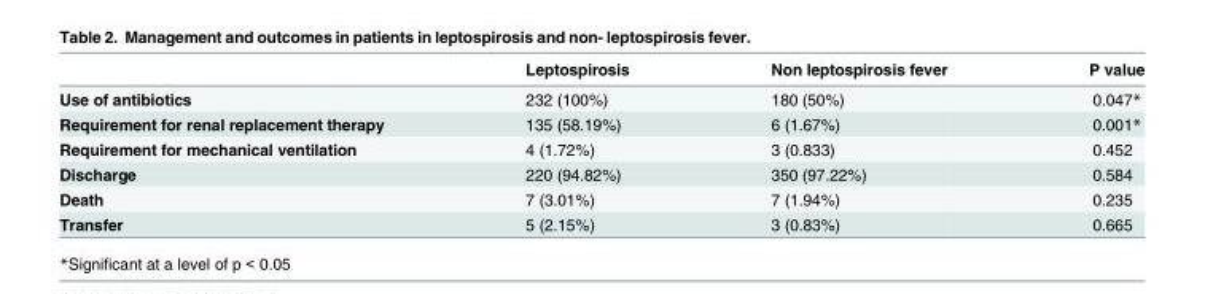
<table><thead><tr><td></td><td>Leptospirosis</td><td>Non leptospirosis fever</td><td>P value</td></tr></thead><tbody><tr><td>Use of antibiotics</td><td>232 (100%)</td><td>180 (50%)</td><td>0.047*</td></tr><tr><td>Requirement for renal replacement therapy</td><td>135 (58.19%)</td><td>6 (1.67%)</td><td>0.001*</td></tr><tr><td>Requirement for mechanical ventilation</td><td>4 (1.72%)</td><td>3 (0.833)</td><td>0.452</td></tr><tr><td>Discharge</td><td>220 (94.82%)</td><td>350 (97.22%)</td><td>0.584</td></tr><tr><td>Death</td><td>7 (3.01%)</td><td>7 (1.94%)</td><td>0.235</td></tr><tr><td>Transfer</td><td>5 (2.15%)</td><td>3 (0.83%)</td><td>0.665</td></tr></tbody></table>